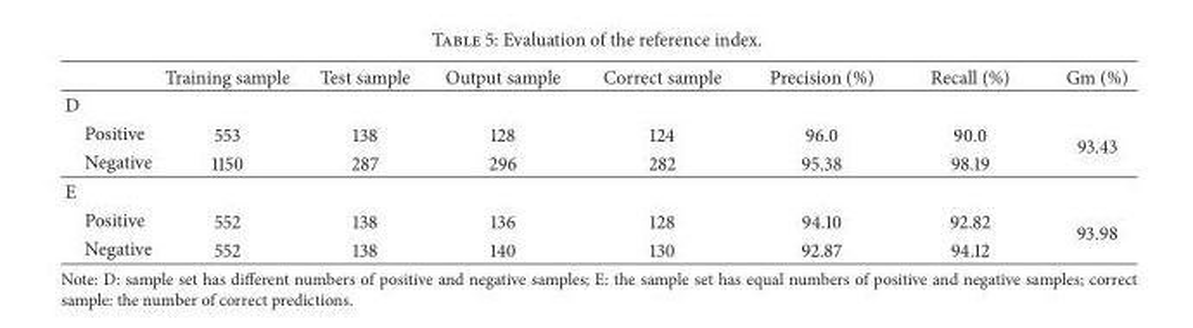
<table><thead><tr><td></td><td>Training sample</td><td>Test sample</td><td>Output sample</td><td>Correct sample</td><td>Precision (%)</td><td>Recall (%)</td><td>Gm (%)</td></tr></thead><tbody><tr><td colspan="8">D</td></tr><tr><td>Positive</td><td>553</td><td>138</td><td>128</td><td>124</td><td>96.0</td><td>90.0</td><td rowspan="2">93.43</td></tr><tr><td>Negative</td><td>1150</td><td>287</td><td>296</td><td>282</td><td>95.38</td><td>98.19</td></tr><tr><td colspan="8">E</td></tr><tr><td>Positive</td><td>552</td><td>138</td><td>136</td><td>128</td><td>94.10</td><td>92.82</td><td rowspan="2">93.98</td></tr><tr><td>Negative</td><td>552</td><td>138</td><td>140</td><td>130</td><td>92.87</td><td>94.12</td></tr></tbody></table>